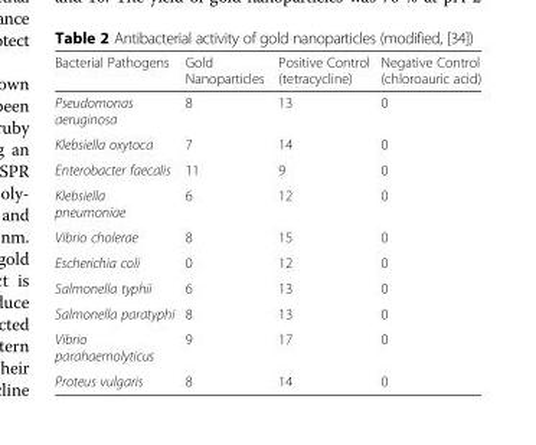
<table><thead><tr><td>Bacterial Pathogens</td><td>Gold Nanoparticles</td><td>Positive Control (tetracycline)</td><td>Negative Control (chloroauric acid)</td></tr></thead><tbody><tr><td>Pseudomonas aeruginosa</td><td>8</td><td>13</td><td>0</td></tr><tr><td>Klebsiella oxytoca</td><td>7</td><td>14</td><td>0</td></tr><tr><td>Enterobacter faecalis</td><td>11</td><td>9</td><td>0</td></tr><tr><td>Klebsiella pneumoniae</td><td>6</td><td>12</td><td>0</td></tr><tr><td>Vibrio cholerae</td><td>8</td><td>15</td><td>0</td></tr><tr><td>Escherichia coli</td><td>0</td><td>12</td><td>0</td></tr><tr><td>Salmonella typhii</td><td>6</td><td>13</td><td>0</td></tr><tr><td>Salmonella paratyphi</td><td>8</td><td>13</td><td>0</td></tr><tr><td>Vibrio parahaemolyticus</td><td>9</td><td>17</td><td>0</td></tr><tr><td>Proteus vulgaris</td><td>8</td><td>14</td><td>0</td></tr></tbody></table>